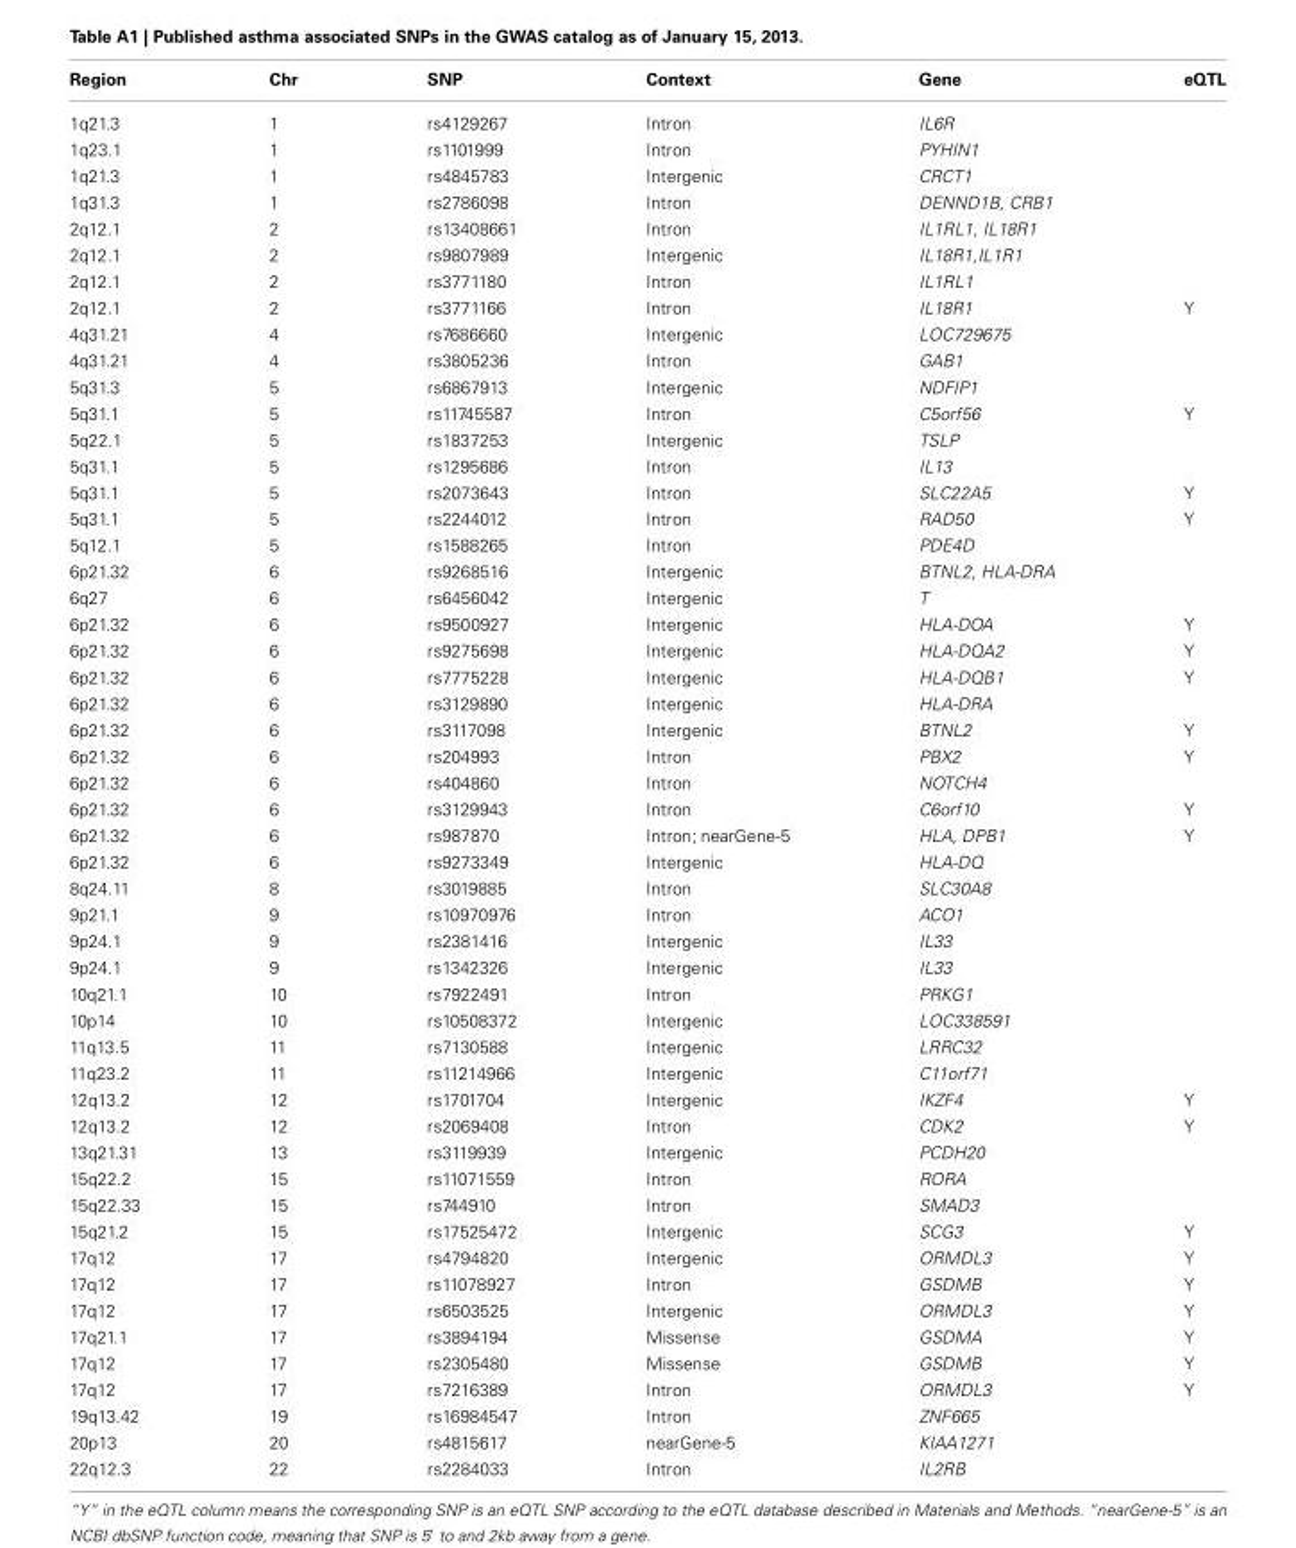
<table><thead><tr><td>Region</td><td>Chr</td><td>SNP</td><td>Context</td><td>Gene</td><td>eQTL</td></tr></thead><tbody><tr><td>1q21.3</td><td>1</td><td>rs4129267</td><td>Intron</td><td>IL6R</td><td></td></tr><tr><td>1q23.1</td><td>1</td><td>rs1101999</td><td>Intron</td><td>PYHIN1</td><td></td></tr><tr><td>1q21.3</td><td>1</td><td>rs4845783</td><td>Intergenic</td><td>CRCT1</td><td></td></tr><tr><td>1q31.3</td><td>1</td><td>rs2786098</td><td>Intron</td><td>DENND1B, CRB1</td><td></td></tr><tr><td>2q12.1</td><td>2</td><td>rs13408661</td><td>Intron</td><td>IL1RL1, IL18R1</td><td></td></tr><tr><td>2q12.1</td><td>2</td><td>rs9807989</td><td>Intergenic</td><td>IL18R1,IL1R1</td><td></td></tr><tr><td>2q12.1</td><td>2</td><td>rs3771180</td><td>Intron</td><td>IL1RL1</td><td></td></tr><tr><td>2q12.1</td><td>2</td><td>rs3771166</td><td>Intron</td><td>IL18R1</td><td>Y</td></tr><tr><td>4q31.21</td><td>4</td><td>rs7686660</td><td>Intergenic</td><td>LOC729675</td><td></td></tr><tr><td>4q31.21</td><td>4</td><td>rs3805236</td><td>Intron</td><td>GAB1</td><td></td></tr><tr><td>5q31.3</td><td>5</td><td>rs6867913</td><td>Intergenic</td><td>NDFIP1</td><td></td></tr><tr><td>5q31.1</td><td>5</td><td>rs11745587</td><td>Intron</td><td>C5orf56</td><td>Y</td></tr><tr><td>5q22.1</td><td>5</td><td>rs1837253</td><td>Intergenic</td><td>TSLP</td><td></td></tr><tr><td>5q31.1</td><td>5</td><td>rs1295686</td><td>Intron</td><td>IL13</td><td></td></tr><tr><td>5q31.1</td><td>5</td><td>rs2073643</td><td>Intron</td><td>SLC22A5</td><td>Y</td></tr><tr><td>5q31.1</td><td>5</td><td>rs2244012</td><td>Intron</td><td>RAD50</td><td>Y</td></tr><tr><td>5q12.1</td><td>5</td><td>rs1588265</td><td>Intron</td><td>PDE4D</td><td></td></tr><tr><td>6p21.32</td><td>6</td><td>rs9268516</td><td>Intergenic</td><td>BTNL2, HLA-DRA</td><td></td></tr><tr><td>6q27</td><td>6</td><td>rs6456042</td><td>Intergenic</td><td>T</td><td></td></tr><tr><td>6p21.32</td><td>6</td><td>rs9500927</td><td>Intergenic</td><td>HLA-DOA</td><td>Y</td></tr><tr><td>6p21.32</td><td>6</td><td>rs9275698</td><td>Intergenic</td><td>HLA-DQA2</td><td>Y</td></tr><tr><td>6p21.32</td><td>6</td><td>rs7775228</td><td>Intergenic</td><td>HLA-DQB1</td><td>Y</td></tr><tr><td>6p21.32</td><td>6</td><td>rs3129890</td><td>Intergenic</td><td>HLA-DRA</td><td></td></tr><tr><td>6p21.32</td><td>6</td><td>rs3117098</td><td>Intergenic</td><td>BTNL2</td><td>Y</td></tr><tr><td>6p21.32</td><td>6</td><td>rs204993</td><td>Intron</td><td>PBX2</td><td>Y</td></tr><tr><td>6p21.32</td><td>6</td><td>rs404860</td><td>Intron</td><td>NOTCH4</td><td></td></tr><tr><td>6p21.32</td><td>6</td><td>rs3129943</td><td>Intron</td><td>C6orf10</td><td>Y</td></tr><tr><td>6p21.32</td><td>6</td><td>rs987870</td><td>Intron; nearGene-5</td><td>HLA, DPB1</td><td>Y</td></tr><tr><td>6p21.32</td><td>6</td><td>rs9273349</td><td>Intergenic</td><td>HLA-DQ</td><td></td></tr><tr><td>8q24.11</td><td>8</td><td>rs3019885</td><td>Intron</td><td>SLC30A8</td><td></td></tr><tr><td>9p21.1</td><td>9</td><td>rs10970976</td><td>Intron</td><td>ACO1</td><td></td></tr><tr><td>9p24.1</td><td>9</td><td>rs2381416</td><td>Intergenic</td><td>IL33</td><td></td></tr><tr><td>9p24.1</td><td>9</td><td>rs1342326</td><td>Intergenic</td><td>IL33</td><td></td></tr><tr><td>10q21.1</td><td>10</td><td>rs7922491</td><td>Intron</td><td>PRKG1</td><td></td></tr><tr><td>10p14</td><td>10</td><td>rs10508372</td><td>Intergenic</td><td>LOC338591</td><td></td></tr><tr><td>11q13.5</td><td>11</td><td>rs7130588</td><td>Intergenic</td><td>LRRC32</td><td></td></tr><tr><td>11q23.2</td><td>11</td><td>rs11214966</td><td>Intergenic</td><td>C11orf71</td><td></td></tr><tr><td>12q13.2</td><td>12</td><td>rs1701704</td><td>Intergenic</td><td>IKZF4</td><td>Y</td></tr><tr><td>12q13.2</td><td>12</td><td>rs2069408</td><td>Intron</td><td>CDK2</td><td>Y</td></tr><tr><td>13q21.31</td><td>13</td><td>rs3119939</td><td>Intergenic</td><td>PCDH20</td><td></td></tr><tr><td>15q22.2</td><td>15</td><td>rs11071559</td><td>Intron</td><td>RORA</td><td></td></tr><tr><td>15q22.33</td><td>15</td><td>rs744910</td><td>Intron</td><td>SMAD3</td><td></td></tr><tr><td>15q21.2</td><td>15</td><td>rs17525472</td><td>Intergenic</td><td>SCG3</td><td>Y</td></tr><tr><td>17q12</td><td>17</td><td>rs4794820</td><td>Intergenic</td><td>ORMDL3</td><td>Y</td></tr><tr><td>17q12</td><td>17</td><td>rs11078927</td><td>Intron</td><td>GSDMB</td><td>Y</td></tr><tr><td>17q12</td><td>17</td><td>rs6503525</td><td>Intergenic</td><td>ORMDL3</td><td>Y</td></tr><tr><td>17q21.1</td><td>17</td><td>rs3894194</td><td>Missense</td><td>GSDMA</td><td>Y</td></tr><tr><td>17q12</td><td>17</td><td>rs2305480</td><td>Missense</td><td>GSDMB</td><td>Y</td></tr><tr><td>17q12</td><td>17</td><td>rs7216389</td><td>Intron</td><td>ORMDL3</td><td>Y</td></tr><tr><td>19q13.42</td><td>19</td><td>rs16984547</td><td>Intron</td><td>ZNF665</td><td></td></tr><tr><td>20p13</td><td>20</td><td>rs4815617</td><td>nearGene-5</td><td>KIAA1271</td><td></td></tr><tr><td>22q12.3</td><td>22</td><td>rs2284033</td><td>Intron</td><td>IL2RB</td><td></td></tr></tbody></table>